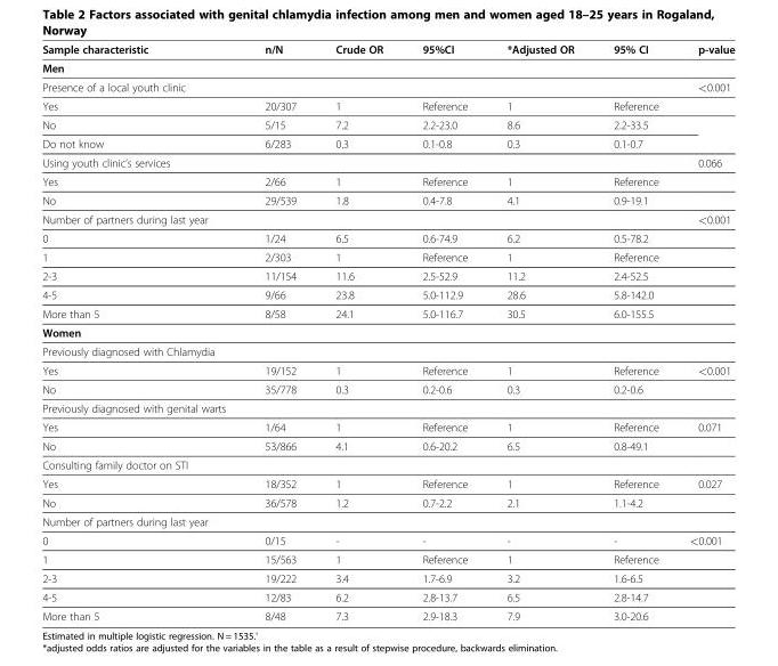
<table><thead><tr><td>Sample characteristic</td><td>n/N</td><td>Crude OR</td><td>95%CI</td><td>*Adjusted OR</td><td>95% CI</td><td>p-value</td></tr></thead><tbody><tr><td colspan="7">Men</td></tr><tr><td>Presence of a local youth clinic</td><td></td><td></td><td></td><td></td><td></td><td>&lt;0.001</td></tr><tr><td>Yes</td><td>20/307</td><td>1</td><td>Reference</td><td>1</td><td>Reference</td><td></td></tr><tr><td>No</td><td>5/15</td><td>7.2</td><td>2.2-23.0</td><td>8.6</td><td>2.2-33.5</td><td rowspan="2"></td></tr><tr><td>Do not know</td><td>6/283</td><td>0.3</td><td>0.1-0.8</td><td>0.3</td><td>0.1-0.7</td></tr><tr><td>Using youth clinic’s services</td><td></td><td></td><td></td><td></td><td></td><td>0.066</td></tr><tr><td>Yes</td><td>2/66</td><td>1</td><td>Reference</td><td>1</td><td>Reference</td><td></td></tr><tr><td>No</td><td>29/539</td><td>1.8</td><td>0.4-7.8</td><td>4.1</td><td>0.9-19.1</td><td></td></tr><tr><td>Number of partners during last year</td><td></td><td></td><td></td><td></td><td></td><td>&lt;0.001</td></tr><tr><td>0</td><td>1/24</td><td>6.5</td><td>0.6-74.9</td><td>6.2</td><td>0.5-78.2</td><td></td></tr><tr><td>1</td><td>2/303</td><td>1</td><td>Reference</td><td>1</td><td>Reference</td><td></td></tr><tr><td>2-3</td><td>11/154</td><td>11.6</td><td>2.5-52.9</td><td>11.2</td><td>2.4-52.5</td><td></td></tr><tr><td>4-5</td><td>9/66</td><td>23.8</td><td>5.0-112.9</td><td>28.6</td><td>5.8-142.0</td><td></td></tr><tr><td>More than 5</td><td>8/58</td><td>24.1</td><td>5.0-116.7</td><td>30.5</td><td>6.0-155.5</td><td></td></tr><tr><td colspan="7">Women</td></tr><tr><td colspan="7">Previously diagnosed with Chlamydia</td></tr><tr><td>Yes</td><td>19/152</td><td>1</td><td>Reference</td><td>1</td><td>Reference</td><td>&lt;0.001</td></tr><tr><td>No</td><td>35/778</td><td>0.3</td><td>0.2-0.6</td><td>0.3</td><td>0.2-0.6</td><td></td></tr><tr><td colspan="7">Previously diagnosed with genital warts</td></tr><tr><td>Yes</td><td>1/64</td><td>1</td><td>Reference</td><td>1</td><td>Reference</td><td>0.071</td></tr><tr><td>No</td><td>53/866</td><td>4.1</td><td>0.6-20.2</td><td>6.5</td><td>0.8-49.1</td><td></td></tr><tr><td colspan="7">Consulting family doctor on STI</td></tr><tr><td>Yes</td><td>18/352</td><td>1</td><td>Reference</td><td>1</td><td>Reference</td><td>0.027</td></tr><tr><td>No</td><td>36/578</td><td>1.2</td><td>0.7-2.2</td><td>2.1</td><td>1.1-4.2</td><td></td></tr><tr><td colspan="7">Number of partners during last year</td></tr><tr><td>0</td><td>0/15</td><td>-</td><td>-</td><td>-</td><td>-</td><td>&lt;0.001</td></tr><tr><td>1</td><td>15/563</td><td>1</td><td>Reference</td><td>1</td><td>Reference</td><td></td></tr><tr><td>2-3</td><td>19/222</td><td>3.4</td><td>1.7-6.9</td><td>3.2</td><td>1.6-6.5</td><td></td></tr><tr><td>4-5</td><td>12/83</td><td>6.2</td><td>2.8-13.7</td><td>6.5</td><td>2.8-14.7</td><td></td></tr><tr><td>More than 5</td><td>8/48</td><td>7.3</td><td>2.9-18.3</td><td>7.9</td><td>3.0-20.6</td><td></td></tr></tbody></table>